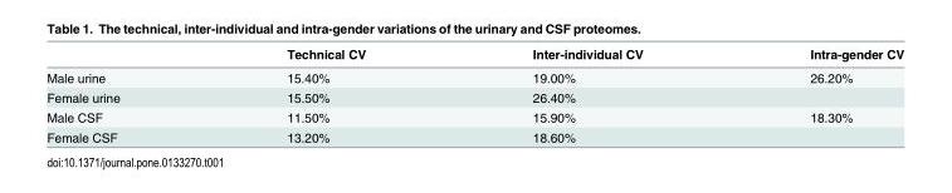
<table><thead><tr><td></td><td>Technical CV</td><td>Inter-individual CV</td><td>Intra-gender CV</td></tr></thead><tbody><tr><td>Male urine</td><td>15.40%</td><td>19.00%</td><td>26.20%</td></tr><tr><td>Female urine</td><td>15.50%</td><td>26.40%</td><td></td></tr><tr><td>Male CSF</td><td>11.50%</td><td>15.90%</td><td>18.30%</td></tr><tr><td>Female CSF</td><td>13.20%</td><td>18.60%</td><td></td></tr></tbody></table>